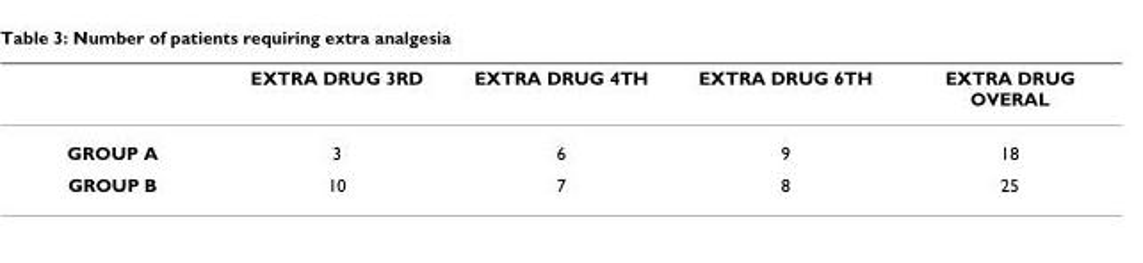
<table><thead><tr><td></td><td>EXTRA DRUG 3RD</td><td>EXTRA DRUG 4TH</td><td>EXTRA DRUG 6TH</td><td>EXTRA DRUG OVERAL</td></tr></thead><tbody><tr><td>GROUP A</td><td>3</td><td>6</td><td>9</td><td>18</td></tr><tr><td>GROUP B</td><td>10</td><td>7</td><td>8</td><td>25</td></tr></tbody></table>